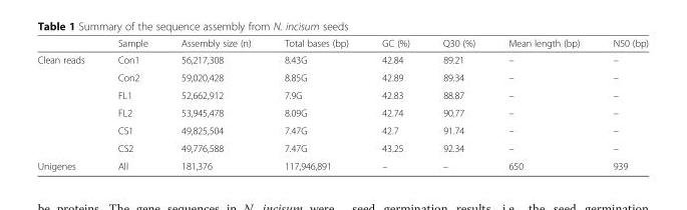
<table><thead><tr><td></td><td>Sample</td><td>Assembly size (n)</td><td>Total bases (bp)</td><td>GC (%)</td><td>Q30 (%)</td><td>Mean length (bp)</td><td>N50 (bp)</td></tr></thead><tbody><tr><td rowspan="6">Clean reads</td><td>Con1</td><td>56,217,308</td><td>8.43G</td><td>42.84</td><td>89.21</td><td>–</td><td>–</td></tr><tr><td>Con2</td><td>59,020,428</td><td>8.85G</td><td>42.89</td><td>89.34</td><td>–</td><td>–</td></tr><tr><td>FL1</td><td>52,662,912</td><td>7.9G</td><td>42.83</td><td>88.87</td><td>–</td><td>–</td></tr><tr><td>FL2</td><td>53,945,478</td><td>8.09G</td><td>42.74</td><td>90.77</td><td>–</td><td>–</td></tr><tr><td>CS1</td><td>49,825,504</td><td>7.47G</td><td>42.7</td><td>91.74</td><td>–</td><td>–</td></tr><tr><td>CS2</td><td>49,776,588</td><td>7.47G</td><td>43.25</td><td>92.34</td><td>–</td><td>–</td></tr><tr><td>Unigenes</td><td>All</td><td>181,376</td><td>117,946,891</td><td>–</td><td>–</td><td>650</td><td>939</td></tr></tbody></table>